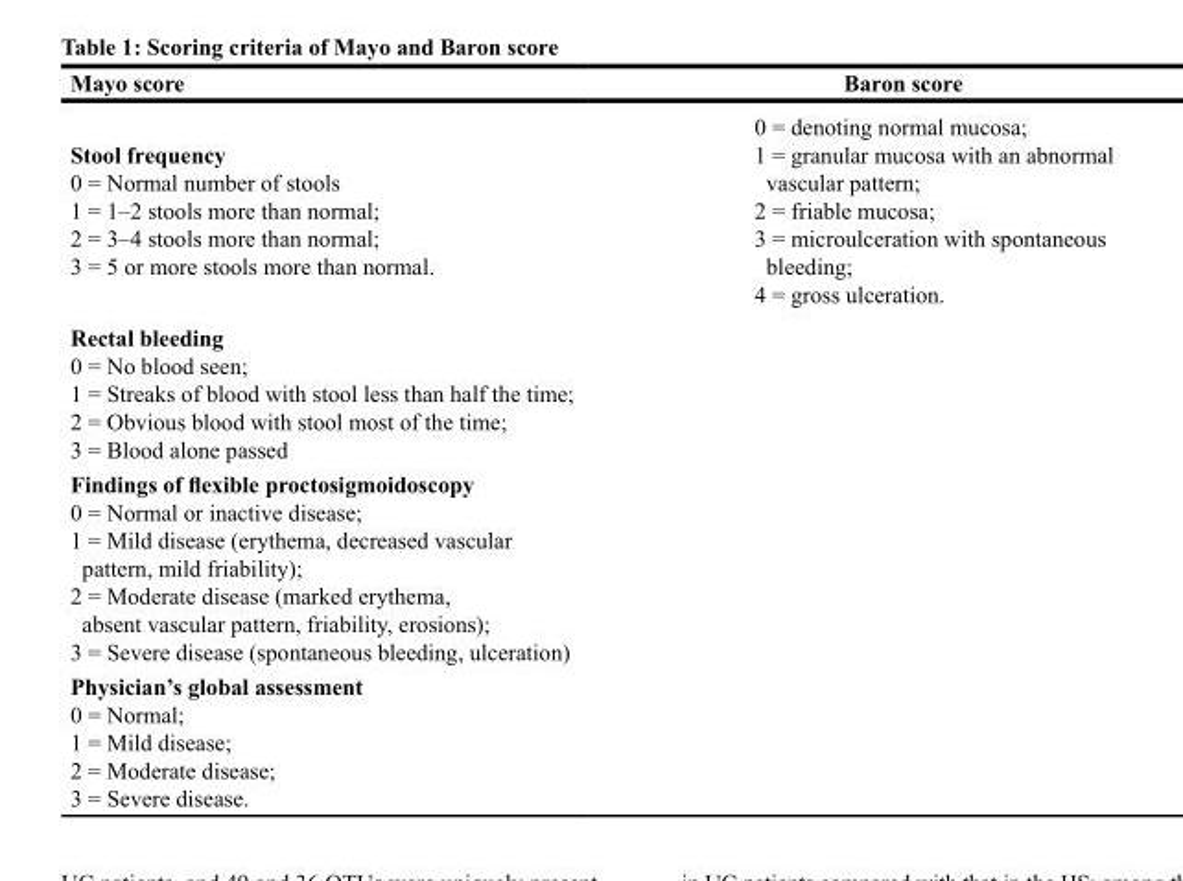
<table><thead><tr><td>Mayo score</td><td>Baron score</td></tr></thead><tbody><tr><td>Stool frequency 0 = Normal number of stools 1 = 1–2 stools more than normal; 2 = 3–4 stools more than normal; 3 = 5 or more stools more than normal.</td><td>0 = denoting normal mucosa; 1 = granular mucosa with an abnormal vascular pattern; 2 = friable mucosa; 3 = microulceration with spontaneous bleeding; 4 = gross ulceration.</td></tr><tr><td colspan="2">Rectal bleeding 0 = No blood seen; 1 = Streaks of blood with stool less than half the time; 2 = Obvious blood with stool most of the time; 3 = Blood alone passed</td></tr><tr><td colspan="2">Findings of flexible proctosigmoidoscopy 0 = Normal or inactive disease; 1 = Mild disease (erythema, decreased vascular pattern, mild friability); 2 = Moderate disease (marked erythema, absent vascular pattern, friability, erosions); 3 = Severe disease (spontaneous bleeding, ulceration)</td></tr><tr><td>Physician’s global assessment 0 = Normal; 1 = Mild disease; 2 = Moderate disease; 3 = Severe disease.</td><td></td></tr></tbody></table>